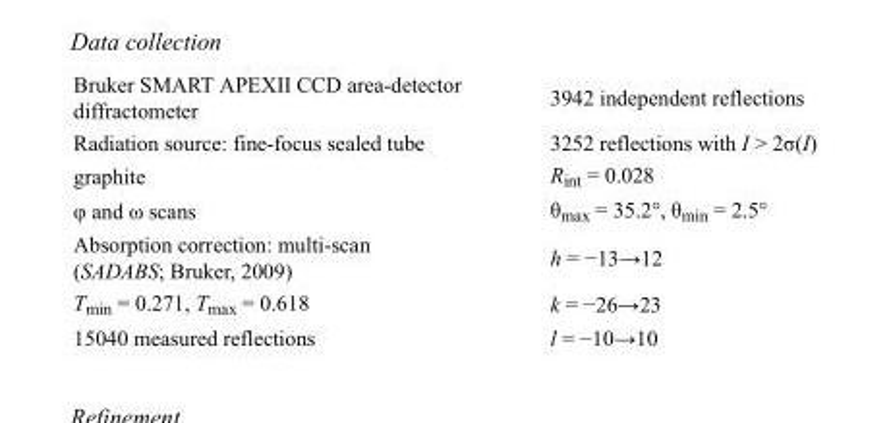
<table><tbody><tr><td>Bruker SMART APEXII CCD area-detector diffractometer</td><td>3942 independent reflections</td></tr><tr><td>Radiation source: fine-focus sealed tube</td><td>3252 reflections with I &gt; 2σ(I)</td></tr><tr><td>graphite</td><td>R<sub>int</sub> = 0.028</td></tr><tr><td>φ and ω scans</td><td>θ<sub>max</sub> = 35.2°, θ<sub>min</sub> = 2.5°</td></tr><tr><td>Absorption correction: multi-scan (SADABS; Bruker, 2009)</td><td>h = −13→12</td></tr><tr><td>T<sub>min</sub> = 0.271, T<sub>max</sub> = 0.618</td><td>k = −26→23</td></tr><tr><td>15040 measured reflections</td><td>l = −10→10</td></tr></tbody></table>